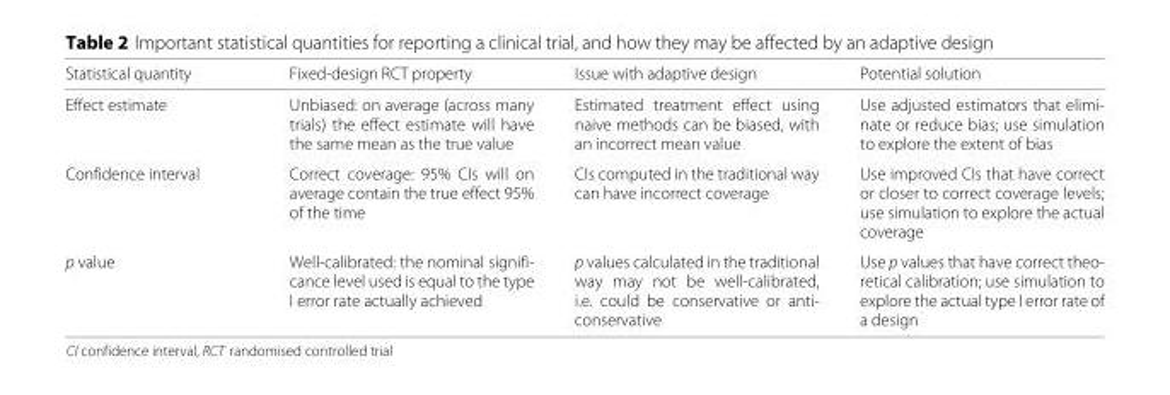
<table><thead><tr><td>Statistical quantity</td><td>Fixed-design RCT property</td><td>Issue with adaptive design</td><td>Potential solution</td></tr></thead><tbody><tr><td>Effect estimate</td><td>Unbiased: on average (across many trials) the effect estimate will have the same mean as the true value</td><td>Estimated treatment effect using naive methods can be biased, with an incorrect mean value</td><td>Use adjusted estimators that elimi- nate or reduce bias; use simulation to explore the extent of bias</td></tr><tr><td>Confidence interval</td><td>Correct coverage: 95% CIs will on average contain the true effect 95% of the time</td><td>CIs computed in the traditional way can have incorrect coverage</td><td>Use improved CIs that have correct or closer to correct coverage levels; use simulation to explore the actual coverage</td></tr><tr><td>p value</td><td>Well-calibrated: the nominal signifi- cance level used is equal to the type I error rate actually achieved</td><td>p values calculated in the traditional way may not be well-calibrated, i.e. could be conservative or anti- conservative</td><td>Use p values that have correct theo- retical calibration; use simulation to explore the actual type I error rate of a design</td></tr></tbody></table>